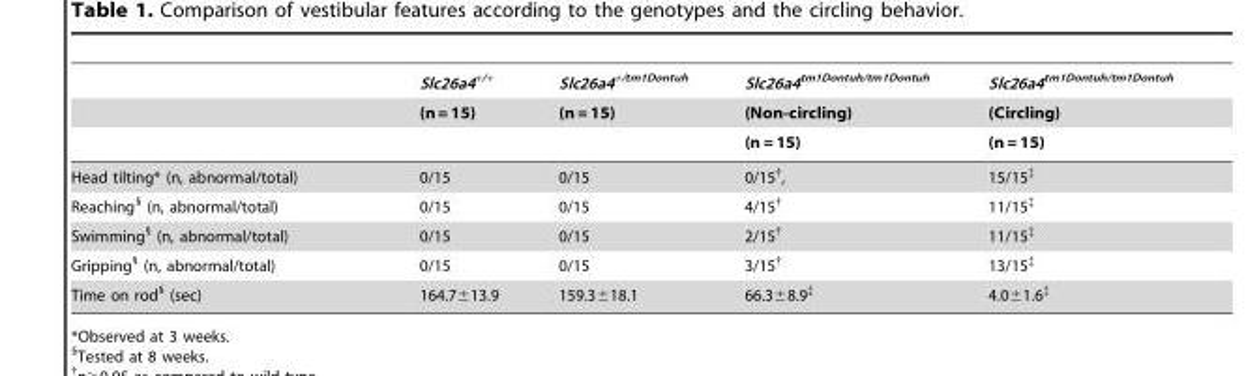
<table><thead><tr><td rowspan="3"></td><td rowspan="3">Slc26a4<sup>+/+</sup> (n = 15)</td><td rowspan="3">Slc26a4<sup>+/tm1Dontuh</sup> (n = 15)</td><td rowspan="3">Slc26a4<sup>tm1Dontuh/tm1Dontuh</sup> (Non-circling) (n = 15)</td><td rowspan="3">Slc26a4<sup>tm1Dontuh/tm1Dontuh</sup> (Circling) (n = 15)</td></tr><tr></tr><tr></tr></thead><tbody><tr><td>Head tilting* (n, abnormal/total)</td><td>0/15</td><td>0/15</td><td>0/15†,</td><td>15/15‡</td></tr><tr><td>Reaching§ (n, abnormal/total)</td><td>0/15</td><td>0/15</td><td>4/15†</td><td>11/15‡</td></tr><tr><td>Swimming§ (n, abnormal/total)</td><td>0/15</td><td>0/15</td><td>2/15†</td><td>11/15‡</td></tr><tr><td>Gripping§ (n, abnormal/total)</td><td>0/15</td><td>0/15</td><td>3/15†</td><td>13/15‡</td></tr><tr><td>Time on rod§ (sec)</td><td>164.7±13.9</td><td>159.3±18.1</td><td>66.3±8.9‡</td><td>4.0±1.6‡</td></tr></tbody></table>